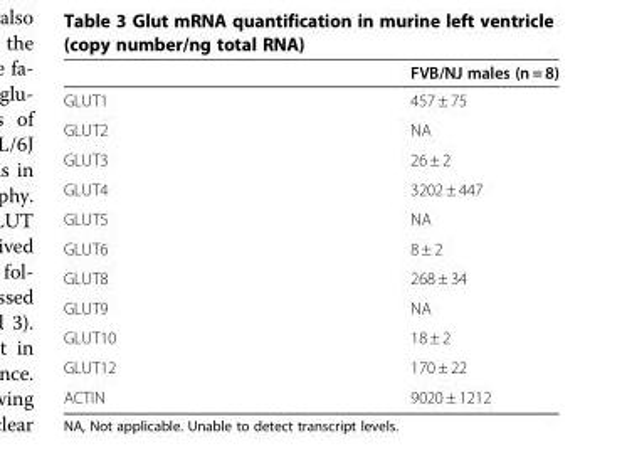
<table><thead><tr><td></td><td>FVB/NJ males (n = 8)</td></tr></thead><tbody><tr><td>GLUT1</td><td>457 ± 75</td></tr><tr><td>GLUT2</td><td>NA</td></tr><tr><td>GLUT3</td><td>26 ± 2</td></tr><tr><td>GLUT4</td><td>3202 ± 447</td></tr><tr><td>GLUT5</td><td>NA</td></tr><tr><td>GLUT6</td><td>8 ± 2</td></tr><tr><td>GLUT8</td><td>268 ± 34</td></tr><tr><td>GLUT9</td><td>NA</td></tr><tr><td>GLUT10</td><td>18 ± 2</td></tr><tr><td>GLUT12</td><td>170 ± 22</td></tr><tr><td>ACTIN</td><td>9020 ± 1212</td></tr></tbody></table>